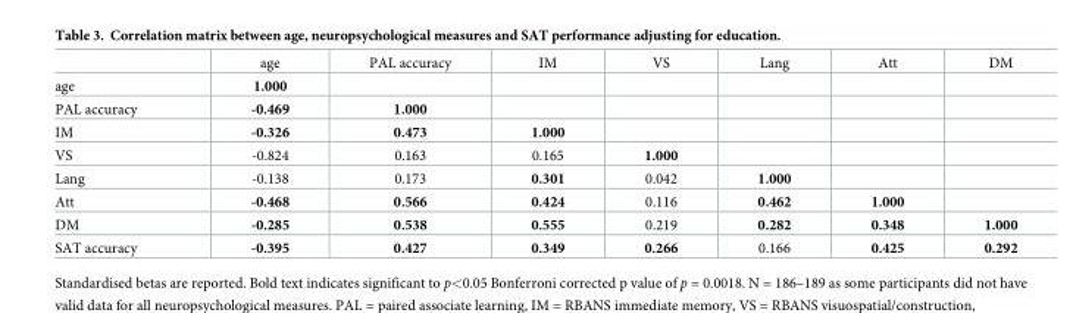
<table><thead><tr><td></td><td>age</td><td>PAL accuracy</td><td>IM</td><td>VS</td><td>Lang</td><td>Att</td><td>DM</td></tr></thead><tbody><tr><td>age</td><td>1.000</td><td></td><td></td><td></td><td></td><td></td><td></td></tr><tr><td>PAL accuracy</td><td>-0.469</td><td>1.000</td><td></td><td></td><td></td><td></td><td></td></tr><tr><td>IM</td><td>-0.326</td><td>0.473</td><td>1.000</td><td></td><td></td><td></td><td></td></tr><tr><td>VS</td><td>-0.824</td><td>0.163</td><td>0.165</td><td>1.000</td><td></td><td></td><td></td></tr><tr><td>Lang</td><td>-0.138</td><td>0.173</td><td>0.301</td><td>0.042</td><td>1.000</td><td></td><td></td></tr><tr><td>Att</td><td>-0.468</td><td>0.566</td><td>0.424</td><td>0.116</td><td>0.462</td><td>1.000</td><td></td></tr><tr><td>DM</td><td>-0.285</td><td>0.538</td><td>0.555</td><td>0.219</td><td>0.282</td><td>0.348</td><td>1.000</td></tr><tr><td>SAT accuracy</td><td>-0.395</td><td>0.427</td><td>0.349</td><td>0.266</td><td>0.166</td><td>0.425</td><td>0.292</td></tr></tbody></table>